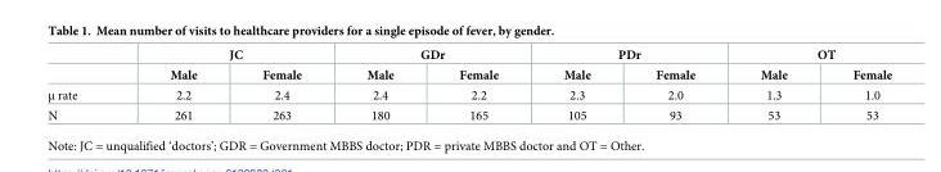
<table><thead><tr><td rowspan="2"></td><td colspan="2">JC</td><td colspan="2">GDr</td><td colspan="2">PDr</td><td colspan="2">OT</td></tr><tr><td>Male</td><td>Female</td><td>Male</td><td>Female</td><td>Male</td><td>Female</td><td>Male</td><td>Female</td></tr></thead><tbody><tr><td>μ rate</td><td>2.2</td><td>2.4</td><td>2.4</td><td>2.2</td><td>2.3</td><td>2.0</td><td>1.3</td><td>1.0</td></tr><tr><td>N</td><td>261</td><td>263</td><td>180</td><td>165</td><td>105</td><td>93</td><td>53</td><td>53</td></tr></tbody></table>